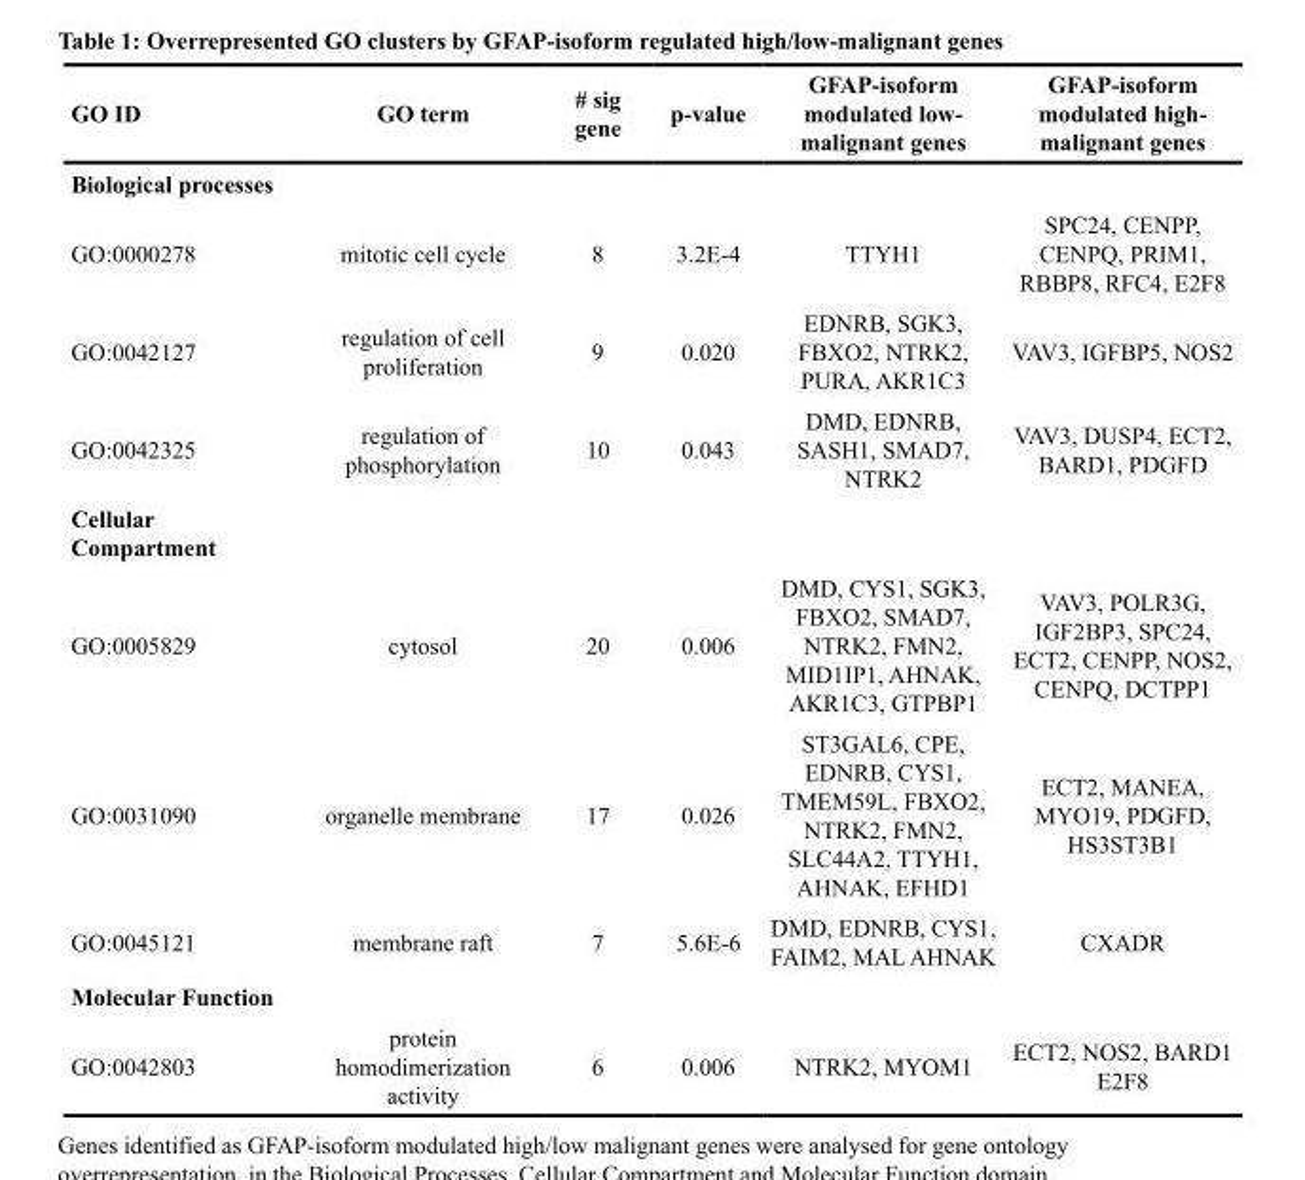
<table><thead><tr><td>GO ID</td><td>GO term</td><td># sig gene</td><td>p-value</td><td>GFAP-isoform modulated low- malignant genes</td><td>GFAP-isoform modulated high- malignant genes</td></tr></thead><tbody><tr><td colspan="6">Biological processes</td></tr><tr><td>GO:0000278</td><td>mitotic cell cycle</td><td>8</td><td>3.2E-4</td><td>TTYH1</td><td>SPC24, CENPP, CENPQ, PRIM1, RBBP8, RFC4, E2F8</td></tr><tr><td>GO:0042127</td><td>regulation of cell proliferation</td><td>9</td><td>0.020</td><td>EDNRB, SGK3, FBXO2, NTRK2, PURA, AKR1C3</td><td>VAV3, IGFBP5, NOS2</td></tr><tr><td>GO:0042325</td><td>regulation of phosphorylation</td><td>10</td><td>0.043</td><td>DMD, EDNRB, SASH1, SMAD7, NTRK2</td><td>VAV3, DUSP4, ECT2, BARD1, PDGFD</td></tr><tr><td colspan="6">Cellular Compartment</td></tr><tr><td>GO:0005829</td><td>cytosol</td><td>20</td><td>0.006</td><td>DMD, CYS1, SGK3, FBXO2, SMAD7, NTRK2, FMN2, MID1IP1, AHNAK, AKR1C3, GTPBP1</td><td>VAV3, POLR3G, IGF2BP3, SPC24, ECT2, CENPP, NOS2, CENPQ, DCTPP1</td></tr><tr><td>GO:0031090</td><td>organelle membrane</td><td>17</td><td>0.026</td><td>ST3GAL6, CPE, EDNRB, CYS1, TMEM59L, FBXO2, NTRK2, FMN2, SLC44A2, TTYH1, AHNAK, EFHD1</td><td>ECT2, MANEA, MYO19, PDGFD, HS3ST3B1</td></tr><tr><td>GO:0045121</td><td>membrane raft</td><td>7</td><td>5.6E-6</td><td>DMD, EDNRB, CYS1, FAIM2, MAL AHNAK</td><td>CXADR</td></tr><tr><td colspan="6">Molecular Function</td></tr><tr><td>GO:0042803</td><td>protein homodimerization activity</td><td>6</td><td>0.006</td><td>NTRK2, MYOM1</td><td>ECT2, NOS2, BARD1 E2F8</td></tr></tbody></table>